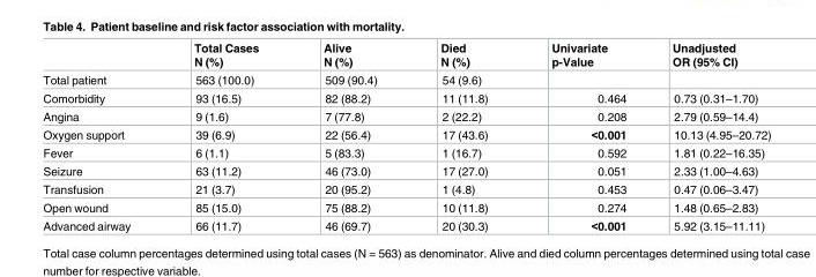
<table><thead><tr><td></td><td>Total Cases N (%)</td><td>Alive N (%)</td><td>Died N (%)</td><td>Univariate p-Value</td><td>Unadjusted OR (95% CI)</td></tr></thead><tbody><tr><td>Total patient</td><td>563 (100.0)</td><td>509 (90.4)</td><td>54 (9.6)</td><td></td><td></td></tr><tr><td>Comorbidity</td><td>93 (16.5)</td><td>82 (88.2)</td><td>11 (11.8)</td><td>0.464</td><td>0.73 (0.31–1.70)</td></tr><tr><td>Angina</td><td>9 (1.6)</td><td>7 (77.8)</td><td>2 (22.2)</td><td>0.208</td><td>2.79 (0.59–14.4)</td></tr><tr><td>Oxygen support</td><td>39 (6.9)</td><td>22 (56.4)</td><td>17 (43.6)</td><td>&lt;0.001</td><td>10.13 (4.95–20.72)</td></tr><tr><td>Fever</td><td>6 (1.1)</td><td>5 (83.3)</td><td>1 (16.7)</td><td>0.592</td><td>1.81 (0.22–16.35)</td></tr><tr><td>Seizure</td><td>63 (11.2)</td><td>46 (73.0)</td><td>17 (27.0)</td><td>0.051</td><td>2.33 (1.00–4.63)</td></tr><tr><td>Transfusion</td><td>21 (3.7)</td><td>20 (95.2)</td><td>1 (4.8)</td><td>0.453</td><td>0.47 (0.06–3.47)</td></tr><tr><td>Open wound</td><td>85 (15.0)</td><td>75 (88.2)</td><td>10 (11.8)</td><td>0.274</td><td>1.48 (0.65–2.83)</td></tr><tr><td>Advanced airway</td><td>66 (11.7)</td><td>46 (69.7)</td><td>20 (30.3)</td><td>&lt;0.001</td><td>5.92 (3.15–11.11)</td></tr></tbody></table>